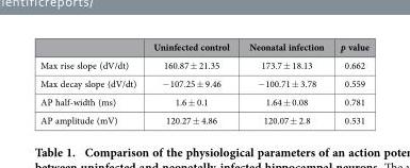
<table><thead><tr><td></td><td>Uninfected control</td><td>Neonatal infection</td><td>p value</td></tr></thead><tbody><tr><td>Max rise slope (dV/dt)</td><td>160.87 ± 21.35</td><td>173.7 ± 18.13</td><td>0.662</td></tr><tr><td>Max decay slope (dV/dt)</td><td>− 107.25 ± 9.46</td><td>− 100.71 ± 3.78</td><td>0.559</td></tr><tr><td>AP half-width (ms)</td><td>1.6 ± 0.1</td><td>1.64 ± 0.08</td><td>0.781</td></tr><tr><td>AP amplitude (mV)</td><td>120.27 ± 4.86</td><td>120.07 ± 2.8</td><td>0.531</td></tr></tbody></table>